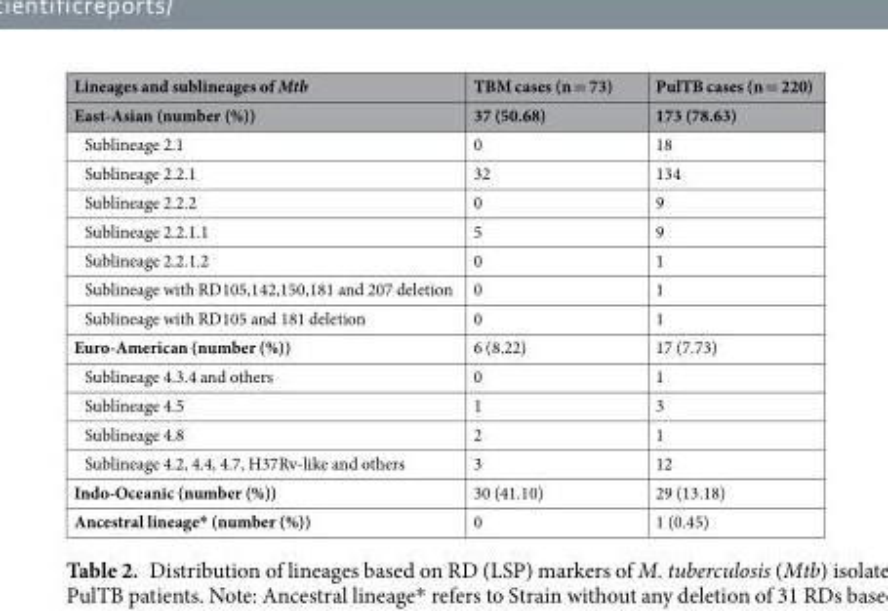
<table><thead><tr><td rowspan="2">Lineages and sublineages of Mtb East-Asian (number (%))</td><td rowspan="2">TBM cases (n = 73) 37 (50.68)</td><td rowspan="2">PulTB cases (n = 220) 173 (78.63)</td></tr><tr></tr></thead><tbody><tr><td>Sublineage 2.1</td><td>0</td><td>18</td></tr><tr><td>Sublineage 2.2.1</td><td>32</td><td>134</td></tr><tr><td>Sublineage 2.2.2</td><td>0</td><td>9</td></tr><tr><td>Sublineage 2.2.1.1</td><td>5</td><td>9</td></tr><tr><td>Sublineage 2.2.1.2</td><td>0</td><td>1</td></tr><tr><td>Sublineage with RD105,142,150,181 and 207 deletion</td><td>0</td><td>1</td></tr><tr><td>Sublineage with RD105 and 181 deletion</td><td>0</td><td>1</td></tr><tr><td>Euro-American (number (%))</td><td>6 (8.22)</td><td>17 (7.73)</td></tr><tr><td>Sublineage 4.3.4 and others</td><td>0</td><td>1</td></tr><tr><td>Sublineage 4.5</td><td>1</td><td>3</td></tr><tr><td>Sublineage 4.8</td><td>2</td><td>1</td></tr><tr><td>Sublineage 4.2, 4.4, 4.7, H37Rv-like and others</td><td>3</td><td>12</td></tr><tr><td>Indo-Oceanic (number (%))</td><td>30 (41.10)</td><td>29 (13.18)</td></tr><tr><td>Ancestral lineage* (number (%))</td><td>0</td><td>1 (0.45)</td></tr></tbody></table>